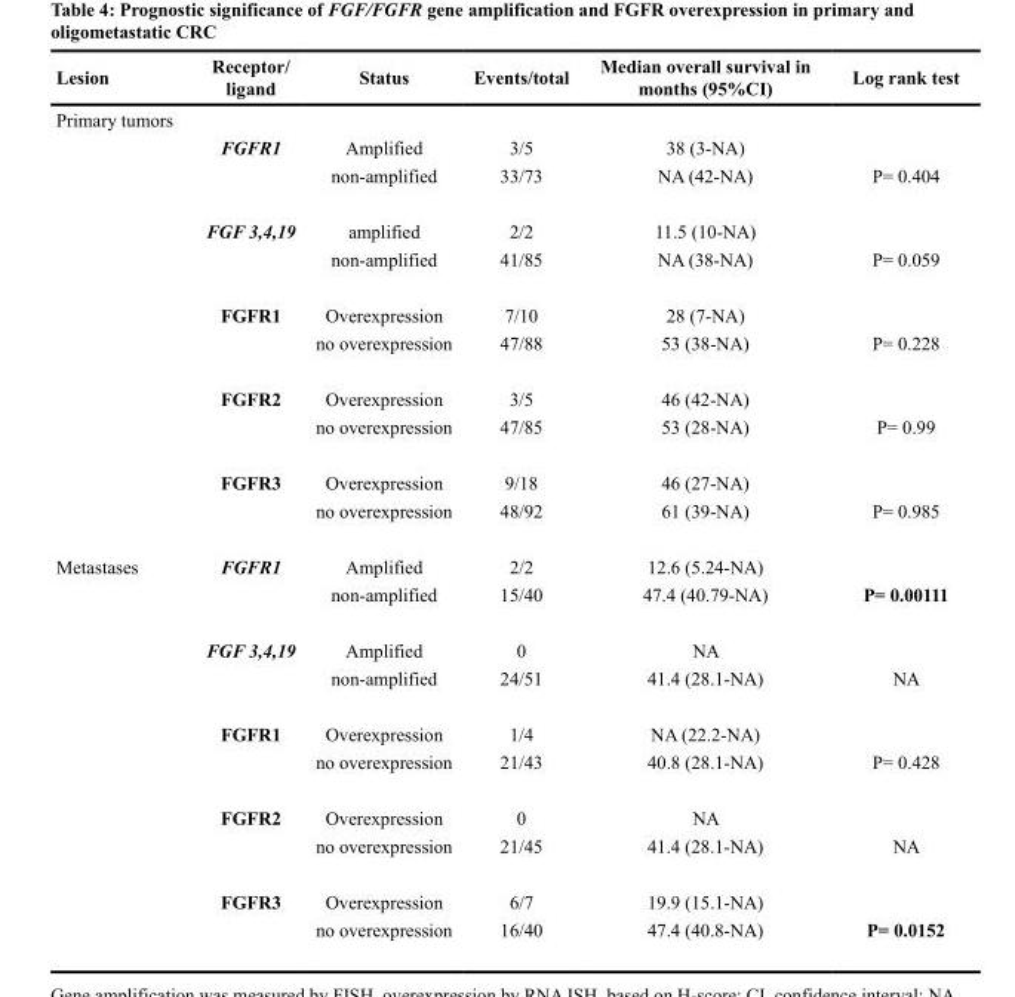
<table><thead><tr><td>Lesion</td><td>Receptor/ ligand</td><td>Status</td><td>Events/total</td><td>Median overall survival in months (95%CI)</td><td>Log rank test</td></tr></thead><tbody><tr><td colspan="6">Primary tumors</td></tr><tr><td></td><td>FGFR1</td><td>Amplified</td><td>3/5</td><td>38 (3-NA)</td><td></td></tr><tr><td></td><td></td><td>non-amplified</td><td>33/73</td><td>NA (42-NA)</td><td>P= 0.404</td></tr><tr><td></td><td>FGF 3,4,19</td><td>amplified</td><td>2/2</td><td>11.5 (10-NA)</td><td></td></tr><tr><td></td><td></td><td>non-amplified</td><td>41/85</td><td>NA (38-NA)</td><td>P= 0.059</td></tr><tr><td></td><td>FGFR1</td><td>Overexpression</td><td>7/10</td><td>28 (7-NA)</td><td></td></tr><tr><td></td><td></td><td>no overexpression</td><td>47/88</td><td>53 (38-NA)</td><td>P= 0.228</td></tr><tr><td></td><td>FGFR2</td><td>Overexpression</td><td>3/5</td><td>46 (42-NA)</td><td></td></tr><tr><td></td><td></td><td>no overexpression</td><td>47/85</td><td>53 (28-NA)</td><td>P= 0.99</td></tr><tr><td></td><td>FGFR3</td><td>Overexpression</td><td>9/18</td><td>46 (27-NA)</td><td></td></tr><tr><td></td><td></td><td>no overexpression</td><td>48/92</td><td>61 (39-NA)</td><td>P= 0.985</td></tr><tr><td rowspan="10">Metastases</td><td>FGFR1</td><td>Amplified</td><td>2/2</td><td>12.6 (5.24-NA)</td><td></td></tr><tr><td></td><td>non-amplified</td><td>15/40</td><td>47.4 (40.79-NA)</td><td>P= 0.00111</td></tr><tr><td>FGF 3,4,19</td><td>Amplified</td><td>0</td><td>NA</td><td></td></tr><tr><td></td><td>non-amplified</td><td>24/51</td><td>41.4 (28.1-NA)</td><td>NA</td></tr><tr><td>FGFR1</td><td>Overexpression</td><td>1/4</td><td>NA (22.2-NA)</td><td></td></tr><tr><td></td><td>no overexpression</td><td>21/43</td><td>40.8 (28.1-NA)</td><td>P= 0.428</td></tr><tr><td>FGFR2</td><td>Overexpression</td><td>0</td><td>NA</td><td></td></tr><tr><td></td><td>no overexpression</td><td>21/45</td><td>41.4 (28.1-NA)</td><td>NA</td></tr><tr><td>FGFR3</td><td>Overexpression</td><td>6/7</td><td>19.9 (15.1-NA)</td><td></td></tr><tr><td></td><td>no overexpression</td><td>16/40</td><td>47.4 (40.8-NA)</td><td>P= 0.0152</td></tr></tbody></table>